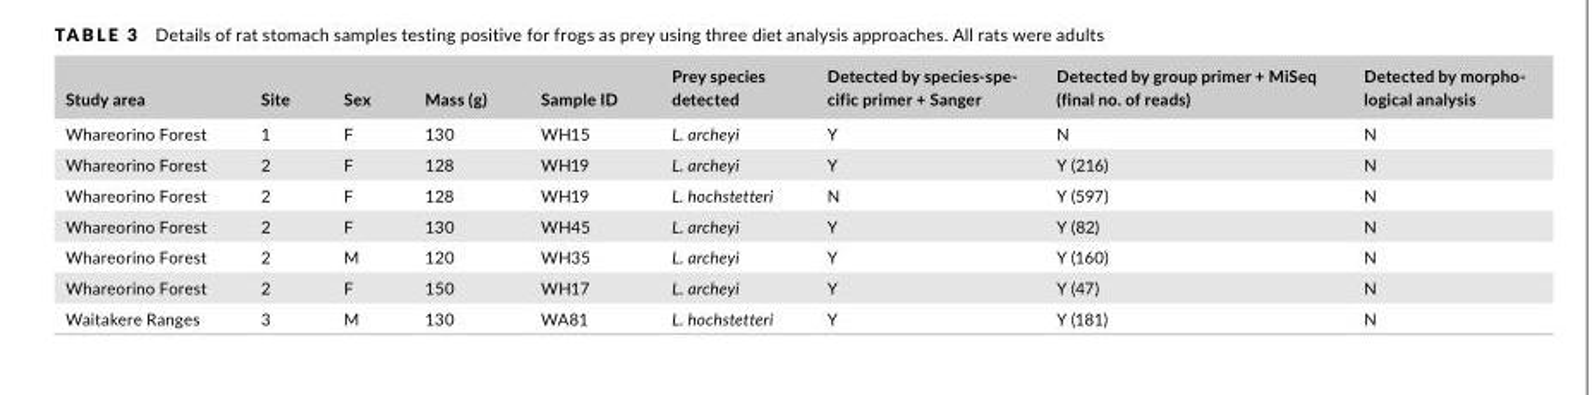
<table><thead><tr><td>Study area</td><td>Site</td><td>Sex</td><td>Mass (g)</td><td>Sample ID</td><td>Prey species detected</td><td>Detected by species‐spe- cific primer + Sanger</td><td>Detected by group primer + MiSeq (final no. of reads)</td><td>Detected by morpho- logical analysis</td></tr></thead><tbody><tr><td>Whareorino Forest</td><td>1</td><td>F</td><td>130</td><td>WH15</td><td>L. archeyi</td><td>Y</td><td>N</td><td>N</td></tr><tr><td>Whareorino Forest</td><td>2</td><td>F</td><td>128</td><td>WH19</td><td>L. archeyi</td><td>Y</td><td>Y (216)</td><td>N</td></tr><tr><td>Whareorino Forest</td><td>2</td><td>F</td><td>128</td><td>WH19</td><td>L. hochstetteri</td><td>N</td><td>Y (597)</td><td>N</td></tr><tr><td>Whareorino Forest</td><td>2</td><td>F</td><td>130</td><td>WH45</td><td>L. archeyi</td><td>Y</td><td>Y (82)</td><td>N</td></tr><tr><td>Whareorino Forest</td><td>2</td><td>M</td><td>120</td><td>WH35</td><td>L. archeyi</td><td>Y</td><td>Y (160)</td><td>N</td></tr><tr><td>Whareorino Forest</td><td>2</td><td>F</td><td>150</td><td>WH17</td><td>L. archeyi</td><td>Y</td><td>Y (47)</td><td>N</td></tr><tr><td>Waitakere Ranges</td><td>3</td><td>M</td><td>130</td><td>WA81</td><td>L. hochstetteri</td><td>Y</td><td>Y (181)</td><td>N</td></tr></tbody></table>